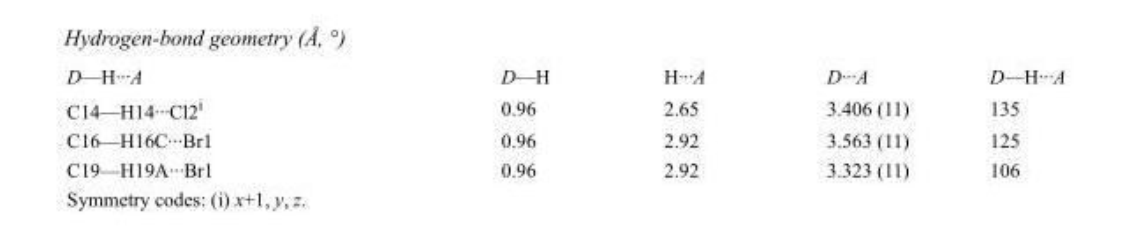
<table><tbody><tr><td>D—H···A</td><td>D—H</td><td>H···A</td><td>D···A</td><td>D—H···A</td></tr><tr><td>C14—H14···Cl2<sup>i</sup></td><td>0.96</td><td>2.65</td><td>3.406 (11)</td><td>135</td></tr><tr><td>C16—H16C···Br1</td><td>0.96</td><td>2.92</td><td>3.563 (11)</td><td>125</td></tr><tr><td>C19—H19A···Br1</td><td>0.96</td><td>2.92</td><td>3.323 (11)</td><td>106</td></tr></tbody></table>